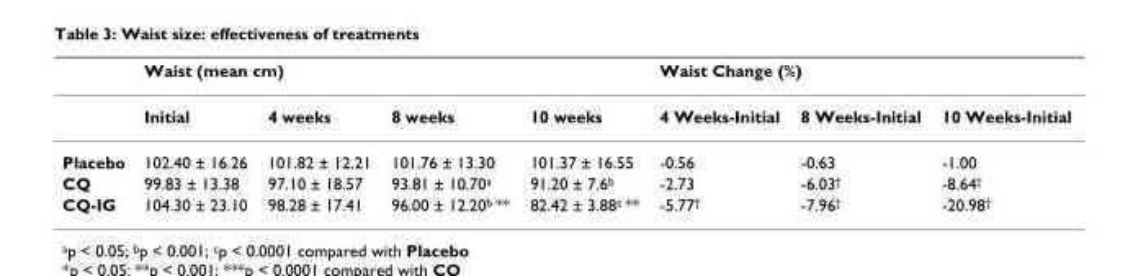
<table><thead><tr><td rowspan="2"></td><td colspan="4">Waist (mean cm)</td><td colspan="3">Waist Change (%)</td></tr><tr><td>Initial</td><td>4 weeks</td><td>8 weeks</td><td>10 weeks</td><td>4 Weeks-Initial</td><td>8 Weeks-Initial</td><td>10 Weeks-Initial</td></tr></thead><tbody><tr><td>Placebo</td><td>102.40 ± 16.26</td><td>101.82 ± 12.21</td><td>101.76 ± 13.30</td><td>101.37 ± 16.55</td><td>-0.56</td><td>-0.63</td><td>-1.00</td></tr><tr><td>CQ</td><td>99.83 ± 13.38</td><td>97.10 ± 18.57</td><td>93.81 ± 10.70<sup>a</sup></td><td>91.20 ± 7.6<sup>b</sup></td><td>-2.73</td><td>-6.03<sup>†</sup></td><td>-8.64<sup>†</sup></td></tr><tr><td>CQ-IG</td><td>104.30 ± 23.10</td><td>98.28 ± 17.41</td><td>96.00 ± 12.20<sup>b</sup> **</td><td>82.42 ± 3.88<sup>c</sup> **</td><td>-5.77<sup>†</sup></td><td>-7.96<sup>†</sup></td><td>-20.98<sup>†</sup></td></tr></tbody></table>